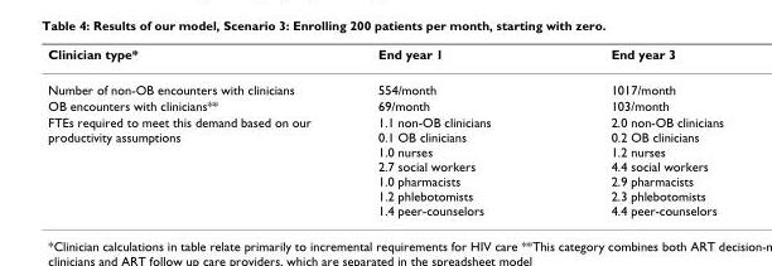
<table><thead><tr><td>Clinician type*</td><td>End year 1</td><td>End year 3</td></tr></thead><tbody><tr><td>Number of non-OB encounters with clinicians</td><td>554/month</td><td>1017/month</td></tr><tr><td>OB encounters with clinicians**</td><td>69/month</td><td>103/month</td></tr><tr><td>FTEs required to meet this demand based on our productivity assumptions</td><td>1.1 non-OB clinicians 0.1 OB clinicians 1.0 nurses 2.7 social workers 1.0 pharmacists 1.2 phlebotomists 1.4 peer-counselors</td><td>2.0 non-OB clinicians 0.2 OB clinicians 1.2 nurses 4.4 social workers 2.9 pharmacists 2.3 phlebotomists 4.4 peer-counselors</td></tr></tbody></table>